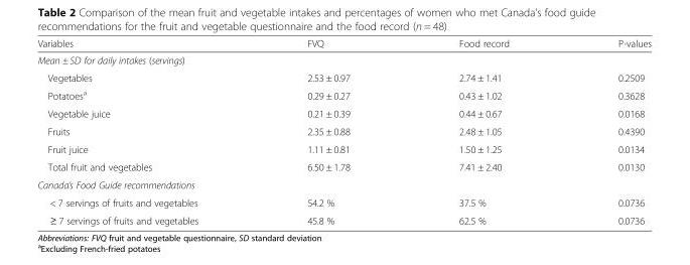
<table><thead><tr><td>Variables</td><td>FVQ</td><td>Food record</td><td>P-values</td></tr></thead><tbody><tr><td colspan="4">Mean ± SD for daily intakes (servings)</td></tr><tr><td>Vegetables</td><td>2.53 ± 0.97</td><td>2.74 ± 1.41</td><td>0.2509</td></tr><tr><td>Potatoes<sup>a</sup></td><td>0.29 ± 0.27</td><td>0.43 ± 1.02</td><td>0.3628</td></tr><tr><td>Vegetable juice</td><td>0.21 ± 0.39</td><td>0.44 ± 0.67</td><td>0.0168</td></tr><tr><td>Fruits</td><td>2.35 ± 0.88</td><td>2.48 ± 1.05</td><td>0.4390</td></tr><tr><td>Fruit juice</td><td>1.11 ± 0.81</td><td>1.50 ± 1.25</td><td>0.0134</td></tr><tr><td>Total fruit and vegetables</td><td>6.50 ± 1.78</td><td>7.41 ± 2.40</td><td>0.0130</td></tr><tr><td colspan="4">Canada’s Food Guide recommendations</td></tr><tr><td>&lt; 7 servings of fruits and vegetables</td><td>54.2 %</td><td>37.5 %</td><td>0.0736</td></tr><tr><td>≥ 7 servings of fruits and vegetables</td><td>45.8 %</td><td>62.5 %</td><td>0.0736</td></tr></tbody></table>